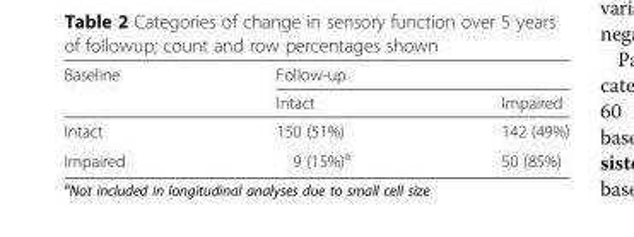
<table><thead><tr><td rowspan="2">Baseline</td><td colspan="2">Follow-up</td></tr><tr><td>Intact</td><td>Impaired</td></tr></thead><tbody><tr><td>Intact</td><td>150 (51%)</td><td>142 (49%)</td></tr><tr><td>Impaired</td><td>9 (15%)<sup>a</sup></td><td>50 (85%)</td></tr></tbody></table>